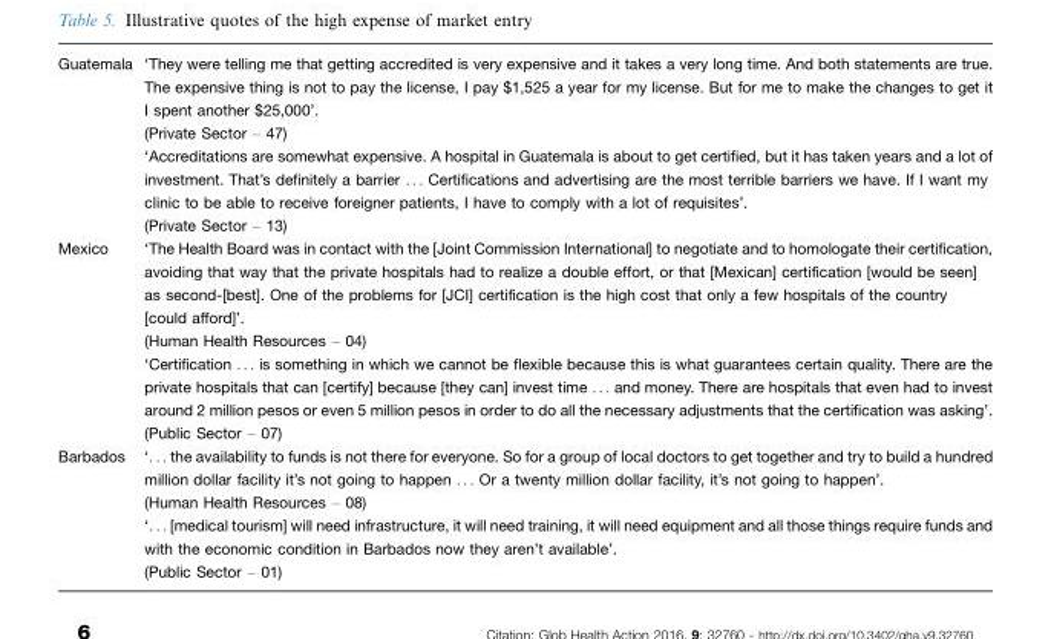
<table><tbody><tr><td>Guatemala</td><td>‘They were telling me that getting accredited is very expensive and it takes a very long time. And both statements are true. The expensive thing is not to pay the license, I pay $1,525 a year for my license. But for me to make the changes to get it I spent another $25,000’. (Private Sector � 47) ‘Accreditations are somewhat expensive. A hospital in Guatemala is about to get certified, but it has taken years and a lot of investment. That’s definitely a barrier . . . Certifications and advertising are the most terrible barriers we have. If I want my clinic to be able to receive foreigner patients, I have to comply with a lot of requisites’. (Private Sector � 13)</td></tr><tr><td>Mexico</td><td>‘The Health Board was in contact with the [Joint Commission International] to negotiate and to homologate their certification, avoiding that way that the private hospitals had to realize a double effort, or that [Mexican] certification [would be seen] as second-[best]. One of the problems for [JCI] certification is the high cost that only a few hospitals of the country [could afford]’. (Human Health Resources � 04) ‘Certification . . . is something in which we cannot be flexible because this is what guarantees certain quality. There are the private hospitals that can [certify] because [they can] invest time . . . and money. There are hospitals that even had to invest around 2 million pesos or even 5 million pesos in order to do all the necessary adjustments that the certification was asking’. (Public Sector � 07)</td></tr><tr><td>Barbados</td><td>‘. . . the availability to funds is not there for everyone. So for a group of local doctors to get together and try to build a hundred million dollar facility it’s not going to happen . . . Or a twenty million dollar facility, it’s not going to happen’. (Human Health Resources � 08) ‘. . . [medical tourism] will need infrastructure, it will need training, it will need equipment and all those things require funds and with the economic condition in Barbados now they aren’t available’. (Public Sector � 01)</td></tr></tbody></table>